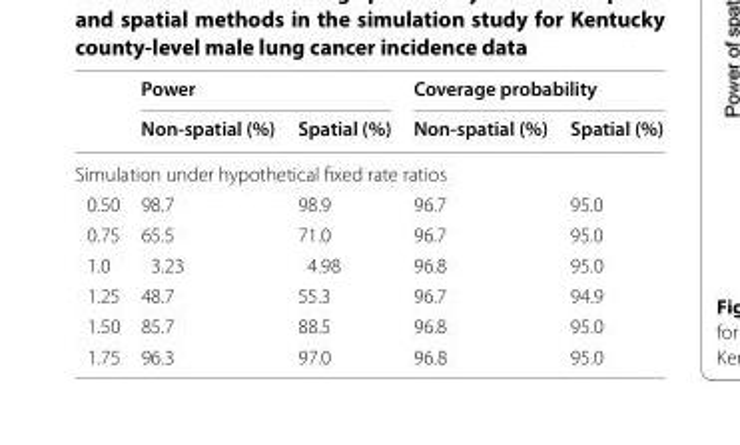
<table><thead><tr><td rowspan="2"></td><td colspan="2">Power</td><td colspan="2">Coverage probability</td></tr><tr><td>Non‑spatial (%)</td><td>Spatial (%)</td><td>Non‑spatial (%)</td><td>Spatial (%)</td></tr></thead><tbody><tr><td colspan="5">Simulation under hypothetical fixed rate ratios</td></tr><tr><td>0.50</td><td>98.7</td><td>98.9</td><td>96.7</td><td>95.0</td></tr><tr><td>0.75</td><td>65.5</td><td>71.0</td><td>96.7</td><td>95.0</td></tr><tr><td>1.0</td><td>3.23</td><td>4.98</td><td>96.8</td><td>95.0</td></tr><tr><td>1.25</td><td>48.7</td><td>55.3</td><td>96.7</td><td>94.9</td></tr><tr><td>1.50</td><td>85.7</td><td>88.5</td><td>96.8</td><td>95.0</td></tr><tr><td>1.75</td><td>96.3</td><td>97.0</td><td>96.8</td><td>95.0</td></tr></tbody></table>